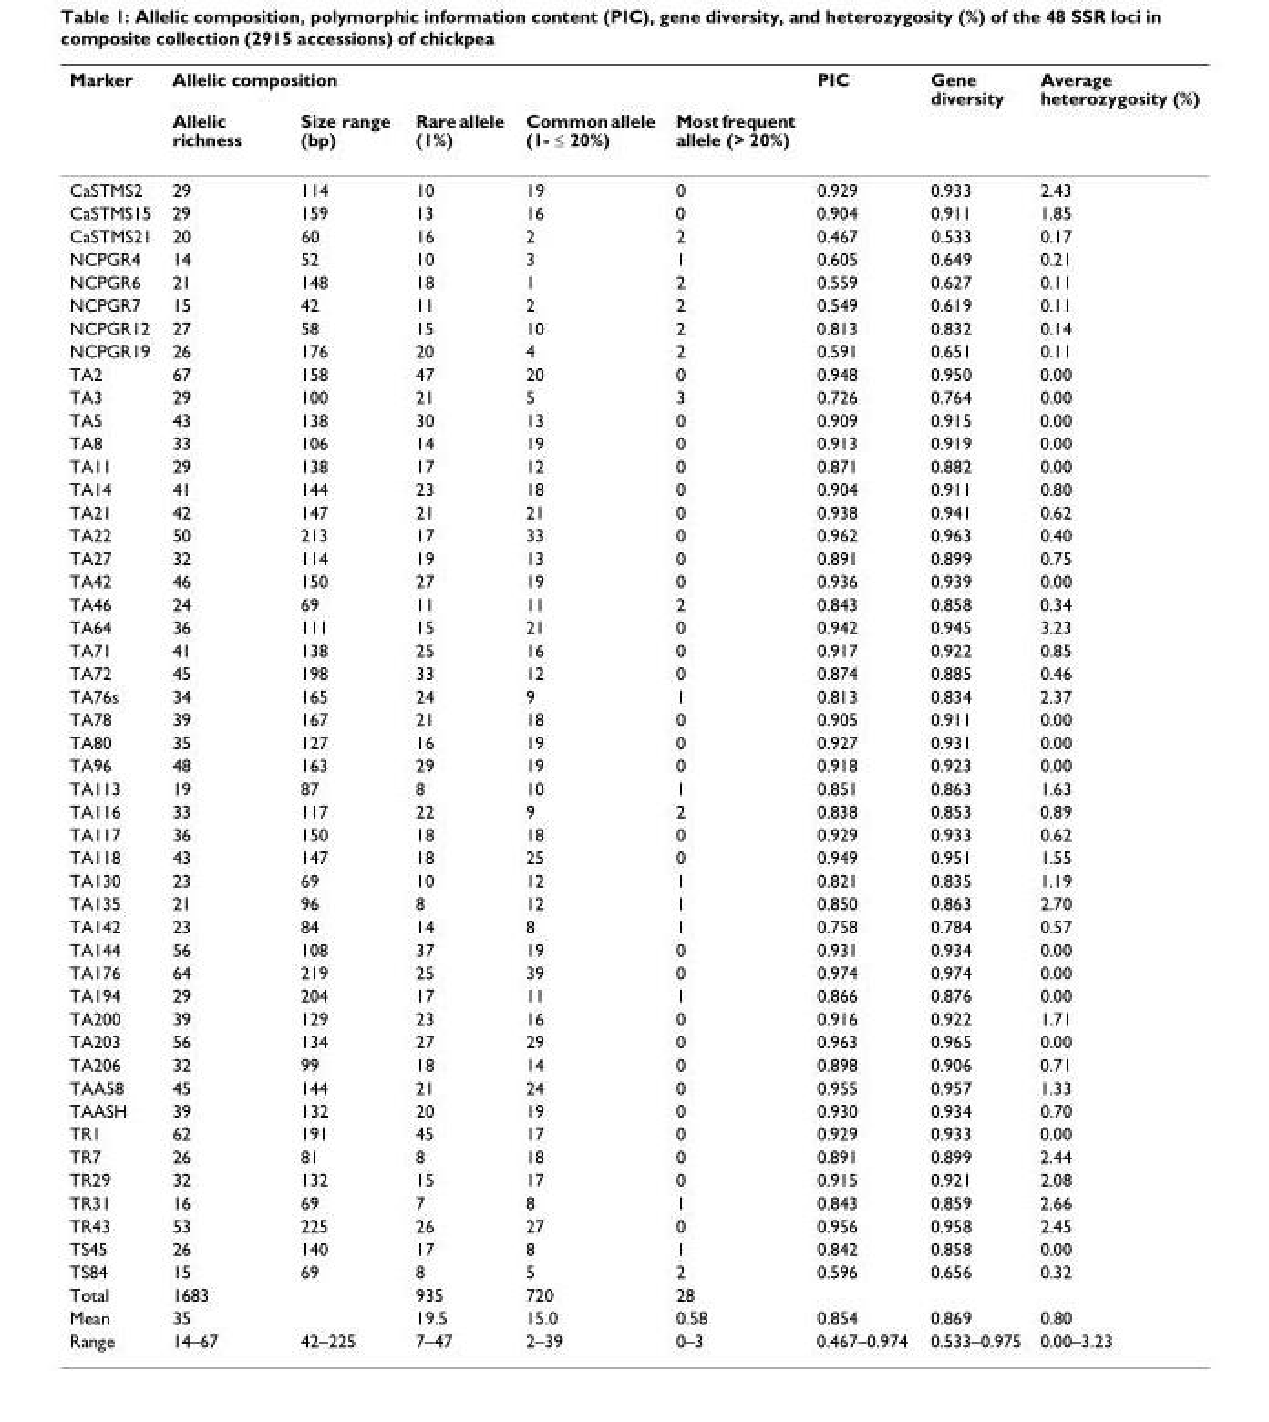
<table><thead><tr><td rowspan="2">Marker</td><td colspan="5">Allelic composition</td><td rowspan="2">PIC</td><td rowspan="2">Gene diversity</td><td rowspan="2">Average heterozygosity (%)</td></tr><tr><td>Allelic richness</td><td>Size range (bp)</td><td>Rare allele (1%)</td><td>Common allele (1- ≤ 20%)</td><td>Most frequent allele (&gt; 20%)</td></tr></thead><tbody><tr><td>CaSTMS2</td><td>29</td><td>114</td><td>10</td><td>19</td><td>0</td><td>0.929</td><td>0.933</td><td>2.43</td></tr><tr><td>CaSTMS15</td><td>29</td><td>159</td><td>13</td><td>16</td><td>0</td><td>0.904</td><td>0.911</td><td>1.85</td></tr><tr><td>CaSTMS21</td><td>20</td><td>60</td><td>16</td><td>2</td><td>2</td><td>0.467</td><td>0.533</td><td>0.17</td></tr><tr><td>NCPGR4</td><td>14</td><td>52</td><td>10</td><td>3</td><td>1</td><td>0.605</td><td>0.649</td><td>0.21</td></tr><tr><td>NCPGR6</td><td>21</td><td>148</td><td>18</td><td>1</td><td>2</td><td>0.559</td><td>0.627</td><td>0.11</td></tr><tr><td>NCPGR7</td><td>15</td><td>42</td><td>11</td><td>2</td><td>2</td><td>0.549</td><td>0.619</td><td>0.11</td></tr><tr><td>NCPGR12</td><td>27</td><td>58</td><td>15</td><td>10</td><td>2</td><td>0.813</td><td>0.832</td><td>0.14</td></tr><tr><td>NCPGR19</td><td>26</td><td>176</td><td>20</td><td>4</td><td>2</td><td>0.591</td><td>0.651</td><td>0.11</td></tr><tr><td>TA2</td><td>67</td><td>158</td><td>47</td><td>20</td><td>0</td><td>0.948</td><td>0.950</td><td>0.00</td></tr><tr><td>TA3</td><td>29</td><td>100</td><td>21</td><td>5</td><td>3</td><td>0.726</td><td>0.764</td><td>0.00</td></tr><tr><td>TA5</td><td>43</td><td>138</td><td>30</td><td>13</td><td>0</td><td>0.909</td><td>0.915</td><td>0.00</td></tr><tr><td>TA8</td><td>33</td><td>106</td><td>14</td><td>19</td><td>0</td><td>0.913</td><td>0.919</td><td>0.00</td></tr><tr><td>TA11</td><td>29</td><td>138</td><td>17</td><td>12</td><td>0</td><td>0.871</td><td>0.882</td><td>0.00</td></tr><tr><td>TA14</td><td>41</td><td>144</td><td>23</td><td>18</td><td>0</td><td>0.904</td><td>0.911</td><td>0.80</td></tr><tr><td>TA21</td><td>42</td><td>147</td><td>21</td><td>21</td><td>0</td><td>0.938</td><td>0.941</td><td>0.62</td></tr><tr><td>TA22</td><td>50</td><td>213</td><td>17</td><td>33</td><td>0</td><td>0.962</td><td>0.963</td><td>0.40</td></tr><tr><td>TA27</td><td>32</td><td>114</td><td>19</td><td>13</td><td>0</td><td>0.891</td><td>0.899</td><td>0.75</td></tr><tr><td>TA42</td><td>46</td><td>150</td><td>27</td><td>19</td><td>0</td><td>0.936</td><td>0.939</td><td>0.00</td></tr><tr><td>TA46</td><td>24</td><td>69</td><td>11</td><td>11</td><td>2</td><td>0.843</td><td>0.858</td><td>0.34</td></tr><tr><td>TA64</td><td>36</td><td>111</td><td>15</td><td>21</td><td>0</td><td>0.942</td><td>0.945</td><td>3.23</td></tr><tr><td>TA71</td><td>41</td><td>138</td><td>25</td><td>16</td><td>0</td><td>0.917</td><td>0.922</td><td>0.85</td></tr><tr><td>TA72</td><td>45</td><td>198</td><td>33</td><td>12</td><td>0</td><td>0.874</td><td>0.885</td><td>0.46</td></tr><tr><td>TA76s</td><td>34</td><td>165</td><td>24</td><td>9</td><td>1</td><td>0.813</td><td>0.834</td><td>2.37</td></tr><tr><td>TA78</td><td>39</td><td>167</td><td>21</td><td>18</td><td>0</td><td>0.905</td><td>0.911</td><td>0.00</td></tr><tr><td>TA80</td><td>35</td><td>127</td><td>16</td><td>19</td><td>0</td><td>0.927</td><td>0.931</td><td>0.00</td></tr><tr><td>TA96</td><td>48</td><td>163</td><td>29</td><td>19</td><td>0</td><td>0.918</td><td>0.923</td><td>0.00</td></tr><tr><td>TA113</td><td>19</td><td>87</td><td>8</td><td>10</td><td>1</td><td>0.851</td><td>0.863</td><td>1.63</td></tr><tr><td>TA116</td><td>33</td><td>117</td><td>22</td><td>9</td><td>2</td><td>0.838</td><td>0.853</td><td>0.89</td></tr><tr><td>TA117</td><td>36</td><td>150</td><td>18</td><td>18</td><td>0</td><td>0.929</td><td>0.933</td><td>0.62</td></tr><tr><td>TA118</td><td>43</td><td>147</td><td>18</td><td>25</td><td>0</td><td>0.949</td><td>0.951</td><td>1.55</td></tr><tr><td>TA130</td><td>23</td><td>69</td><td>10</td><td>12</td><td>1</td><td>0.821</td><td>0.835</td><td>1.19</td></tr><tr><td>TA135</td><td>21</td><td>96</td><td>8</td><td>12</td><td>1</td><td>0.850</td><td>0.863</td><td>2.70</td></tr><tr><td>TA142</td><td>23</td><td>84</td><td>14</td><td>8</td><td>1</td><td>0.758</td><td>0.784</td><td>0.57</td></tr><tr><td>TA144</td><td>56</td><td>108</td><td>37</td><td>19</td><td>0</td><td>0.931</td><td>0.934</td><td>0.00</td></tr><tr><td>TA176</td><td>64</td><td>219</td><td>25</td><td>39</td><td>0</td><td>0.974</td><td>0.974</td><td>0.00</td></tr><tr><td>TA194</td><td>29</td><td>204</td><td>17</td><td>11</td><td>1</td><td>0.866</td><td>0.876</td><td>0.00</td></tr><tr><td>TA200</td><td>39</td><td>129</td><td>23</td><td>16</td><td>0</td><td>0.916</td><td>0.922</td><td>1.71</td></tr><tr><td>TA203</td><td>56</td><td>134</td><td>27</td><td>29</td><td>0</td><td>0.963</td><td>0.965</td><td>0.00</td></tr><tr><td>TA206</td><td>32</td><td>99</td><td>18</td><td>14</td><td>0</td><td>0.898</td><td>0.906</td><td>0.71</td></tr><tr><td>TAA58</td><td>45</td><td>144</td><td>21</td><td>24</td><td>0</td><td>0.955</td><td>0.957</td><td>1.33</td></tr><tr><td>TAASH</td><td>39</td><td>132</td><td>20</td><td>19</td><td>0</td><td>0.930</td><td>0.934</td><td>0.70</td></tr><tr><td>TR1</td><td>62</td><td>191</td><td>45</td><td>17</td><td>0</td><td>0.929</td><td>0.933</td><td>0.00</td></tr><tr><td>TR7</td><td>26</td><td>81</td><td>8</td><td>18</td><td>0</td><td>0.891</td><td>0.899</td><td>2.44</td></tr><tr><td>TR29</td><td>32</td><td>132</td><td>15</td><td>17</td><td>0</td><td>0.915</td><td>0.921</td><td>2.08</td></tr><tr><td>TR31</td><td>16</td><td>69</td><td>7</td><td>8</td><td>1</td><td>0.843</td><td>0.859</td><td>2.66</td></tr><tr><td>TR43</td><td>53</td><td>225</td><td>26</td><td>27</td><td>0</td><td>0.956</td><td>0.958</td><td>2.45</td></tr><tr><td>TS45</td><td>26</td><td>140</td><td>17</td><td>8</td><td>1</td><td>0.842</td><td>0.858</td><td>0.00</td></tr><tr><td>TS84</td><td>15</td><td>69</td><td>8</td><td>5</td><td>2</td><td>0.596</td><td>0.656</td><td>0.32</td></tr><tr><td>Total</td><td>1683</td><td></td><td>935</td><td>720</td><td>28</td><td></td><td></td><td></td></tr><tr><td>Mean</td><td>35</td><td></td><td>19.5</td><td>15.0</td><td>0.58</td><td>0.854</td><td>0.869</td><td>0.80</td></tr><tr><td>Range</td><td>14–67</td><td>42–225</td><td>7–47</td><td>2–39</td><td>0–3</td><td>0.467–0.974</td><td>0.533–0.975</td><td>0.00–3.23</td></tr></tbody></table>